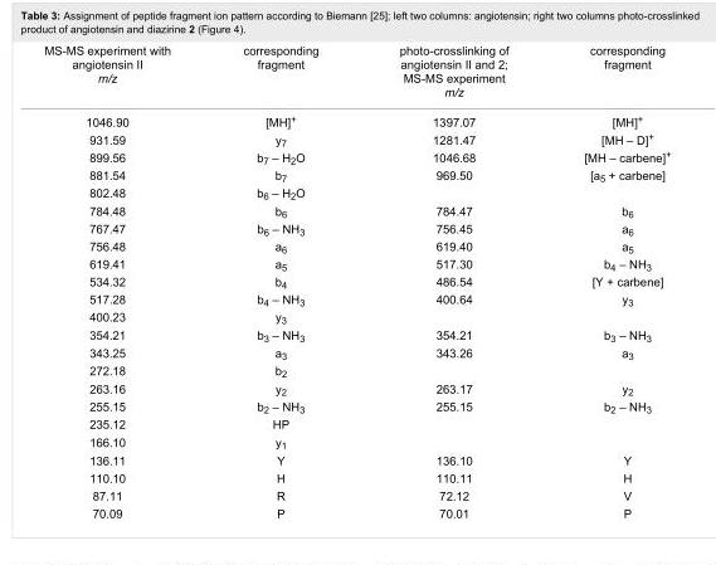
<table><tbody><tr><td>MS-MS experiment with angiotensin II m/z</td><td>corresponding fragment</td><td>photo-crosslinking of angiotensin II and 2; MS-MS experiment m/z</td><td>corresponding fragment</td></tr><tr><td>1046.90</td><td>[MH]<sup>+</sup></td><td>1397.07</td><td>[MH]<sup>+</sup></td></tr><tr><td>931.59</td><td>y<sub>7</sub></td><td>1281.47</td><td>[MH – D]<sup>+</sup></td></tr><tr><td>899.56</td><td>b<sub>7</sub> – H<sub>2</sub>O</td><td>1046.68</td><td>[MH – carbene]<sup>+</sup></td></tr><tr><td>881.54</td><td>b<sub>7</sub></td><td>969.50</td><td>[a<sub>5</sub> + carbene]</td></tr><tr><td>802.48</td><td>b<sub>6</sub> – H<sub>2</sub>O</td><td></td><td></td></tr><tr><td>784.48</td><td>b<sub>6</sub></td><td>784.47</td><td>b<sub>6</sub></td></tr><tr><td>767.47</td><td>b<sub>6</sub> – NH<sub>3</sub></td><td>756.45</td><td>a<sub>6</sub></td></tr><tr><td>756.48</td><td>a<sub>6</sub></td><td>619.40</td><td>a<sub>5</sub></td></tr><tr><td>619.41</td><td>a<sub>5</sub></td><td>517.30</td><td>b<sub>4</sub> – NH<sub>3</sub></td></tr><tr><td>534.32</td><td>b<sub>4</sub></td><td>486.54</td><td>[Y + carbene]</td></tr><tr><td>517.28</td><td>b<sub>4</sub> – NH<sub>3</sub></td><td>400.64</td><td>y<sub>3</sub></td></tr><tr><td>400.23</td><td>y<sub>3</sub></td><td></td><td></td></tr><tr><td>354.21</td><td>b<sub>3</sub> – NH<sub>3</sub></td><td>354.21</td><td>b<sub>3</sub> – NH<sub>3</sub></td></tr><tr><td>343.25</td><td>a<sub>3</sub></td><td>343.26</td><td>a<sub>3</sub></td></tr><tr><td>272.18</td><td>b<sub>2</sub></td><td></td><td></td></tr><tr><td>263.16</td><td>y<sub>2</sub></td><td>263.17</td><td>y<sub>2</sub></td></tr><tr><td>255.15</td><td>b<sub>2</sub> – NH<sub>3</sub></td><td>255.15</td><td>b<sub>2</sub> – NH<sub>3</sub></td></tr><tr><td>235.12</td><td>HP</td><td></td><td></td></tr><tr><td>166.10</td><td>y<sub>1</sub></td><td></td><td></td></tr><tr><td>136.11</td><td>Y</td><td>136.10</td><td>Y</td></tr><tr><td>110.10</td><td>H</td><td>110.11</td><td>H</td></tr><tr><td>87.11</td><td>R</td><td>72.12</td><td>V</td></tr><tr><td>70.09</td><td>P</td><td>70.01</td><td>P</td></tr></tbody></table>